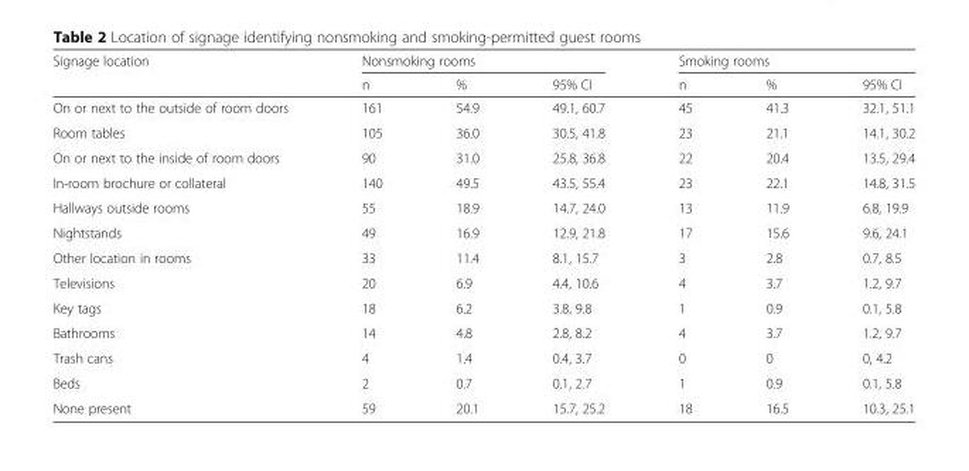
<table><thead><tr><td rowspan="2">Signage location</td><td colspan="3">Nonsmoking rooms</td><td colspan="3">Smoking rooms</td></tr><tr><td>n</td><td>%</td><td>95% CI</td><td>n</td><td>%</td><td>95% CI</td></tr></thead><tbody><tr><td>On or next to the outside of room doors</td><td>161</td><td>54.9</td><td>49.1, 60.7</td><td>45</td><td>41.3</td><td>32.1, 51.1</td></tr><tr><td>Room tables</td><td>105</td><td>36.0</td><td>30.5, 41.8</td><td>23</td><td>21.1</td><td>14.1, 30.2</td></tr><tr><td>On or next to the inside of room doors</td><td>90</td><td>31.0</td><td>25.8, 36.8</td><td>22</td><td>20.4</td><td>13.5, 29.4</td></tr><tr><td>In-room brochure or collateral</td><td>140</td><td>49.5</td><td>43.5, 55.4</td><td>23</td><td>22.1</td><td>14.8, 31.5</td></tr><tr><td>Hallways outside rooms</td><td>55</td><td>18.9</td><td>14.7, 24.0</td><td>13</td><td>11.9</td><td>6.8, 19.9</td></tr><tr><td>Nightstands</td><td>49</td><td>16.9</td><td>12.9, 21.8</td><td>17</td><td>15.6</td><td>9.6, 24.1</td></tr><tr><td>Other location in rooms</td><td>33</td><td>11.4</td><td>8.1, 15.7</td><td>3</td><td>2.8</td><td>0.7, 8.5</td></tr><tr><td>Televisions</td><td>20</td><td>6.9</td><td>4.4, 10.6</td><td>4</td><td>3.7</td><td>1.2, 9.7</td></tr><tr><td>Key tags</td><td>18</td><td>6.2</td><td>3.8, 9.8</td><td>1</td><td>0.9</td><td>0.1, 5.8</td></tr><tr><td>Bathrooms</td><td>14</td><td>4.8</td><td>2.8, 8.2</td><td>4</td><td>3.7</td><td>1.2, 9.7</td></tr><tr><td>Trash cans</td><td>4</td><td>1.4</td><td>0.4, 3.7</td><td>0</td><td>0</td><td>0, 4.2</td></tr><tr><td>Beds</td><td>2</td><td>0.7</td><td>0.1, 2.7</td><td>1</td><td>0.9</td><td>0.1, 5.8</td></tr><tr><td>None present</td><td>59</td><td>20.1</td><td>15.7, 25.2</td><td>18</td><td>16.5</td><td>10.3, 25.1</td></tr></tbody></table>